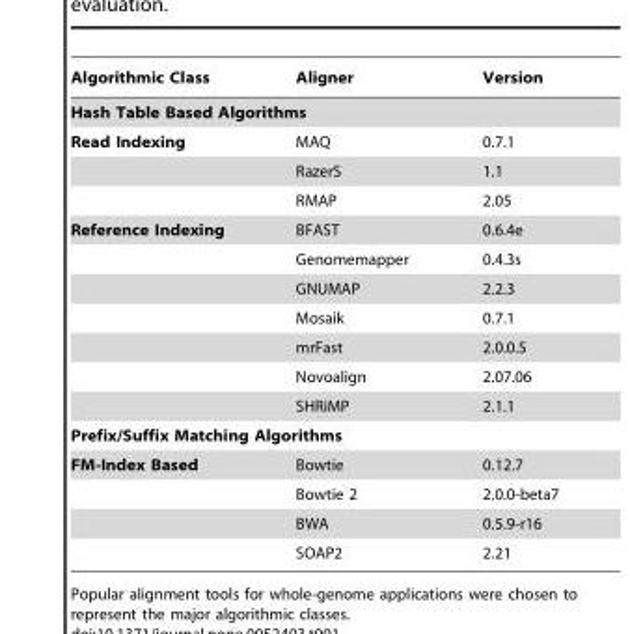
<table><thead><tr><td>Algorithmic Class</td><td>Aligner</td><td>Version</td></tr></thead><tbody><tr><td colspan="3">Hash Table Based Algorithms</td></tr><tr><td rowspan="3">Read Indexing</td><td>MAQ</td><td>0.7.1</td></tr><tr><td>RazerS</td><td>1.1</td></tr><tr><td>RMAP</td><td>2.05</td></tr><tr><td rowspan="7">Reference Indexing</td><td>BFAST</td><td>0.6.4e</td></tr><tr><td>Genomemapper</td><td>0.4.3s</td></tr><tr><td>GNUMAP</td><td>2.2.3</td></tr><tr><td>Mosaik</td><td>0.7.1</td></tr><tr><td>mrFast</td><td>2.0.0.5</td></tr><tr><td>Novoalign</td><td>2.07.06</td></tr><tr><td>SHRiMP</td><td>2.1.1</td></tr><tr><td colspan="3">Prefix/Suffix Matching Algorithms</td></tr><tr><td rowspan="4">FM-Index Based</td><td>Bowtie</td><td>0.12.7</td></tr><tr><td>Bowtie 2</td><td>2.0.0-beta7</td></tr><tr><td>BWA</td><td>0.5.9-r16</td></tr><tr><td>SOAP2</td><td>2.21</td></tr></tbody></table>